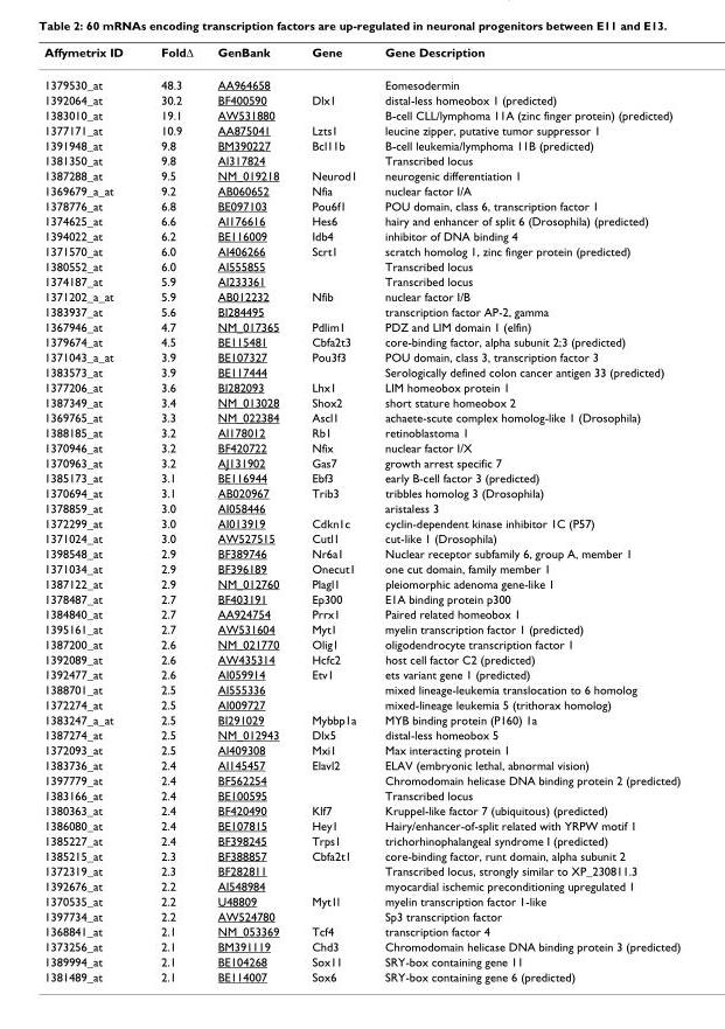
<table><thead><tr><td>Affymetrix ID</td><td>FoldΔ</td><td>GenBank</td><td>Gene</td><td>Gene Description</td></tr></thead><tbody><tr><td>1379530_at</td><td>48.3</td><td>AA964658</td><td></td><td>Eomesodermin</td></tr><tr><td>1392064_at</td><td>30.2</td><td>BF400590</td><td>Dlx1</td><td>distal-less homeobox 1 (predicted)</td></tr><tr><td>1383010_at</td><td>19.1</td><td>AW531880</td><td></td><td>B-cell CLL/lymphoma 11A (zinc finger protein) (predicted)</td></tr><tr><td>1377171_at</td><td>10.9</td><td>AA875041</td><td>Lzts1</td><td>leucine zipper, putative tumor suppressor 1</td></tr><tr><td>1391948_at</td><td>9.8</td><td>BM390227</td><td>Bcl11b</td><td>B-cell leukemia/lymphoma 11B (predicted)</td></tr><tr><td>1381350_at</td><td>9.8</td><td>AI317824</td><td></td><td>Transcribed locus</td></tr><tr><td>1387288_at</td><td>9.5</td><td>NM_019218</td><td>Neurod1</td><td>neurogenic differentiation 1</td></tr><tr><td>1369679_a_at</td><td>9.2</td><td>AB060652</td><td>Nfia</td><td>nuclear factor I/A</td></tr><tr><td>1378776_at</td><td>6.8</td><td>BE097103</td><td>Pou6f1</td><td>POU domain, class 6, transcription factor 1</td></tr><tr><td>1374625_at</td><td>6.6</td><td>AI176616</td><td>Hes6</td><td>hairy and enhancer of split 6 (Drosophila) (predicted)</td></tr><tr><td>1394022_at</td><td>6.2</td><td>BE116009</td><td>Idb4</td><td>inhibitor of DNA binding 4</td></tr><tr><td>1371570_at</td><td>6.0</td><td>AI406266</td><td>Scrt1</td><td>scratch homolog 1, zinc finger protein (predicted)</td></tr><tr><td>1380552_at</td><td>6.0</td><td>AI555855</td><td></td><td>Transcribed locus</td></tr><tr><td>1374187_at</td><td>5.9</td><td>AI233361</td><td></td><td>Transcribed locus</td></tr><tr><td>1371202_a_at</td><td>5.9</td><td>AB012232</td><td>Nfib</td><td>nuclear factor I/B</td></tr><tr><td>1383937_at</td><td>5.6</td><td>BI284495</td><td></td><td>transcription factor AP-2, gamma</td></tr><tr><td>1367946_at</td><td>4.7</td><td>NM_017365</td><td>Pdlim1</td><td>PDZ and LIM domain 1 (elfin)</td></tr><tr><td>1379674_at</td><td>4.5</td><td>BE115481</td><td>Cbfa2t3</td><td>core-binding factor, alpha subunit 2;3 (predicted)</td></tr><tr><td>1371043_a_at</td><td>3.9</td><td>BE107327</td><td>Pou3f3</td><td>POU domain, class 3, transcription factor 3</td></tr><tr><td>1383573_at</td><td>3.9</td><td>BE117444</td><td></td><td>Serologically defined colon cancer antigen 33 (predicted)</td></tr><tr><td>1377206_at</td><td>3.6</td><td>BI282093</td><td>Lhx1</td><td>LIM homeobox protein 1</td></tr><tr><td>1387349_at</td><td>3.4</td><td>NM_013028</td><td>Shox2</td><td>short stature homeobox 2</td></tr><tr><td>1369765_at</td><td>3.3</td><td>NM_022384</td><td>Ascl1</td><td>achaete-scute complex homolog-like 1 (Drosophila)</td></tr><tr><td>1388185_at</td><td>3.2</td><td>AI178012</td><td>Rb1</td><td>retinoblastoma 1</td></tr><tr><td>1370946_at</td><td>3.2</td><td>BF420722</td><td>Nfix</td><td>nuclear factor I/X</td></tr><tr><td>1370963_at</td><td>3.2</td><td>AJ131902</td><td>Gas7</td><td>growth arrest specific 7</td></tr><tr><td>1385173_at</td><td>3.1</td><td>BE116944</td><td>Ebf3</td><td>early B-cell factor 3 (predicted)</td></tr><tr><td>1370694_at</td><td>3.1</td><td>AB020967</td><td>Trib3</td><td>tribbles homolog 3 (Drosophila)</td></tr><tr><td>1378859_at</td><td>3.0</td><td>AI058446</td><td></td><td>aristaless 3</td></tr><tr><td>1372299_at</td><td>3.0</td><td>AI013919</td><td>Cdkn1c</td><td>cyclin-dependent kinase inhibitor 1C (P57)</td></tr><tr><td>1371024_at</td><td>3.0</td><td>AW527515</td><td>Cutl1</td><td>cut-like 1 (Drosophila)</td></tr><tr><td>1398548_at</td><td>2.9</td><td>BF389746</td><td>Nr6a1</td><td>Nuclear receptor subfamily 6, group A, member 1</td></tr><tr><td>1371034_at</td><td>2.9</td><td>BF396189</td><td>Onecut1</td><td>one cut domain, family member 1</td></tr><tr><td>1387122_at</td><td>2.9</td><td>NM_012760</td><td>Plagl1</td><td>pleiomorphic adenoma gene-like 1</td></tr><tr><td>1378487_at</td><td>2.7</td><td>BF403191</td><td>Ep300</td><td>E1A binding protein p300</td></tr><tr><td>1384840_at</td><td>2.7</td><td>AA924754</td><td>Prrx1</td><td>Paired related homeobox 1</td></tr><tr><td>1395161_at</td><td>2.7</td><td>AW531604</td><td>Myt1</td><td>myelin transcription factor 1 (predicted)</td></tr><tr><td>1387200_at</td><td>2.6</td><td>NM_021770</td><td>Olig1</td><td>oligodendrocyte transcription factor 1</td></tr><tr><td>1392089_at</td><td>2.6</td><td>AW435314</td><td>Hcfc2</td><td>host cell factor C2 (predicted)</td></tr><tr><td>1392477_at</td><td>2.6</td><td>AI059914</td><td>Etv1</td><td>ets variant gene 1 (predicted)</td></tr><tr><td>1388701_at</td><td>2.5</td><td>AI555336</td><td></td><td>mixed lineage-leukemia translocation to 6 homolog</td></tr><tr><td>1372274_at</td><td>2.5</td><td>AI009727</td><td></td><td>mixed-lineage leukemia 5 (trithorax homolog)</td></tr><tr><td>1383247_a_at</td><td>2.5</td><td>BI291029</td><td>Mybbp1a</td><td>MYB binding protein (P160) 1a</td></tr><tr><td>1387274_at</td><td>2.5</td><td>NM_012943</td><td>Dlx5</td><td>distal-less homeobox 5</td></tr><tr><td>1372093_at</td><td>2.5</td><td>AI409308</td><td>Mxi1</td><td>Max interacting protein 1</td></tr><tr><td>1383736_at</td><td>2.4</td><td>AI145457</td><td>Elavl2</td><td>ELAV (embryonic lethal, abnormal vision)</td></tr><tr><td>1397779_at</td><td>2.4</td><td>BF562254</td><td></td><td>Chromodomain helicase DNA binding protein 2 (predicted)</td></tr><tr><td>1383166_at</td><td>2.4</td><td>BE100595</td><td></td><td>Transcribed locus</td></tr><tr><td>1380363_at</td><td>2.4</td><td>BF420490</td><td>Klf7</td><td>Kruppel-like factor 7 (ubiquitous) (predicted)</td></tr><tr><td>1386080_at</td><td>2.4</td><td>BE107815</td><td>Hey1</td><td>Hairy/enhancer-of-split related with YRPW motif 1</td></tr><tr><td>1385227_at</td><td>2.4</td><td>BF398245</td><td>Trps1</td><td>trichorhinophalangeal syndrome I (predicted)</td></tr><tr><td>1385215_at</td><td>2.3</td><td>BF388857</td><td>Cbfa2t1</td><td>core-binding factor, runt domain, alpha subunit 2</td></tr><tr><td>1372319_at</td><td>2.3</td><td>BF282811</td><td></td><td>Transcribed locus, strongly similar to XP_230811.3</td></tr><tr><td>1392676_at</td><td>2.2</td><td>AI548984</td><td></td><td>myocardial ischemic preconditioning upregulated 1</td></tr><tr><td>1370535_at</td><td>2.2</td><td>U48809</td><td>Myt1l</td><td>myelin transcription factor 1-like</td></tr><tr><td>1397734_at</td><td>2.2</td><td>AW524780</td><td></td><td>Sp3 transcription factor</td></tr><tr><td>1368841_at</td><td>2.1</td><td>NM_053369</td><td>Tcf4</td><td>transcription factor 4</td></tr><tr><td>1373256_at</td><td>2.1</td><td>BM391119</td><td>Chd3</td><td>Chromodomain helicase DNA binding protein 3 (predicted)</td></tr><tr><td>1389994_at</td><td>2.1</td><td>BE104268</td><td>Sox11</td><td>SRY-box containing gene 11</td></tr><tr><td>1381489_at</td><td>2.1</td><td>BE114007</td><td>Sox6</td><td>SRY-box containing gene 6 (predicted)</td></tr></tbody></table>